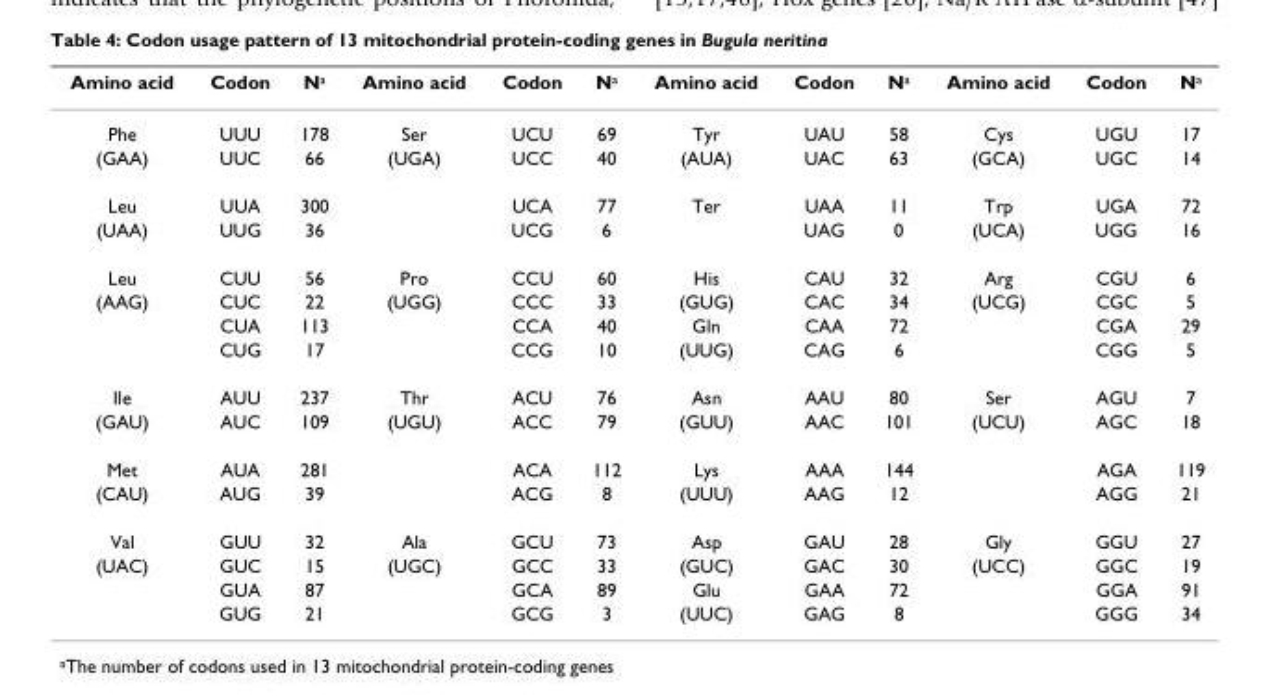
<table><thead><tr><td>Amino acid</td><td>Codon</td><td>N<sup>a</sup></td><td>Amino acid</td><td>Codon</td><td>N<sup>a</sup></td><td>Amino acid</td><td>Codon</td><td>N<sup>a</sup></td><td>Amino acid</td><td>Codon</td><td>N<sup>a</sup></td></tr></thead><tbody><tr><td>Phe</td><td>UUU</td><td>178</td><td>Ser</td><td>UCU</td><td>69</td><td>Tyr</td><td>UAU</td><td>58</td><td>Cys</td><td>UGU</td><td>17</td></tr><tr><td>(GAA)</td><td>UUC</td><td>66</td><td>(UGA)</td><td>UCC</td><td>40</td><td>(AUA)</td><td>UAC</td><td>63</td><td>(GCA)</td><td>UGC</td><td>14</td></tr><tr><td>Leu</td><td>UUA</td><td>300</td><td></td><td>UCA</td><td>77</td><td>Ter</td><td>UAA</td><td>11</td><td>Trp</td><td>UGA</td><td>72</td></tr><tr><td>(UAA)</td><td>UUG</td><td>36</td><td></td><td>UCG</td><td>6</td><td></td><td>UAG</td><td>0</td><td>(UCA)</td><td>UGG</td><td>16</td></tr><tr><td>Leu</td><td>CUU</td><td>56</td><td>Pro</td><td>CCU</td><td>60</td><td>His</td><td>CAU</td><td>32</td><td>Arg</td><td>CGU</td><td>6</td></tr><tr><td rowspan="3">(AAG)</td><td>CUC</td><td>22</td><td>(UGG)</td><td>CCC</td><td>33</td><td>(GUG)</td><td>CAC</td><td>34</td><td>(UCG)</td><td>CGC</td><td>5</td></tr><tr><td>CUA</td><td>113</td><td></td><td>CCA</td><td>40</td><td>Gln</td><td>CAA</td><td>72</td><td></td><td>CGA</td><td>29</td></tr><tr><td>CUG</td><td>17</td><td></td><td>CCG</td><td>10</td><td>(UUG)</td><td>CAG</td><td>6</td><td></td><td>CGG</td><td>5</td></tr><tr><td>Ile</td><td>AUU</td><td>237</td><td>Thr</td><td>ACU</td><td>76</td><td>Asn</td><td>AAU</td><td>80</td><td>Ser</td><td>AGU</td><td>7</td></tr><tr><td>(GAU)</td><td>AUC</td><td>109</td><td>(UGU)</td><td>ACC</td><td>79</td><td>(GUU)</td><td>AAC</td><td>101</td><td>(UCU)</td><td>AGC</td><td>18</td></tr><tr><td>Met</td><td>AUA</td><td>281</td><td></td><td>ACA</td><td>112</td><td>Lys</td><td>AAA</td><td>144</td><td></td><td>AGA</td><td>119</td></tr><tr><td>(CAU)</td><td>AUG</td><td>39</td><td></td><td>ACG</td><td>8</td><td>(UUU)</td><td>AAG</td><td>12</td><td></td><td>AGG</td><td>21</td></tr><tr><td>Val</td><td>GUU</td><td>32</td><td>Ala</td><td>GCU</td><td>73</td><td>Asp</td><td>GAU</td><td>28</td><td>Gly</td><td>GGU</td><td>27</td></tr><tr><td rowspan="3">(UAC)</td><td>GUC</td><td>15</td><td>(UGC)</td><td>GCC</td><td>33</td><td>(GUC)</td><td>GAC</td><td>30</td><td>(UCC)</td><td>GGC</td><td>19</td></tr><tr><td>GUA</td><td>87</td><td></td><td>GCA</td><td>89</td><td>Glu</td><td>GAA</td><td>72</td><td></td><td>GGA</td><td>91</td></tr><tr><td>GUG</td><td>21</td><td></td><td>GCG</td><td>3</td><td>(UUC)</td><td>GAG</td><td>8</td><td></td><td>GGG</td><td>34</td></tr></tbody></table>